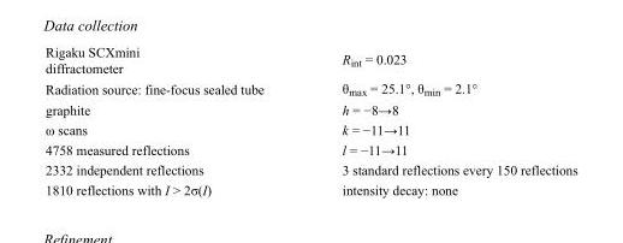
<table><tbody><tr><td>Rigaku SCXmini diffractometer</td><td>R<sub>int</sub> = 0.023</td></tr><tr><td>Radiation source: fine-focus sealed tube</td><td>θ<sub>max</sub> = 25.1°, θ<sub>min</sub> = 2.1°</td></tr><tr><td>graphite</td><td>h = −8→8</td></tr><tr><td>ω scans</td><td>k = −11→11</td></tr><tr><td>4758 measured reflections</td><td>l = −11→11</td></tr><tr><td>2332 independent reflections</td><td>3 standard reflections every 150 reflections</td></tr><tr><td>1810 reflections with I &gt; 2σ(I)</td><td>intensity decay: none</td></tr></tbody></table>